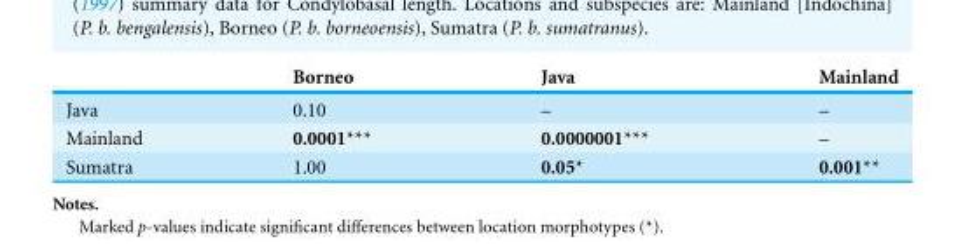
<table><thead><tr><td></td><td>Borneo</td><td>Java</td><td>Mainland</td></tr></thead><tbody><tr><td>Java</td><td>0.10</td><td>–</td><td>–</td></tr><tr><td>Mainland</td><td>0.0001***</td><td>0.0000001***</td><td>–</td></tr><tr><td>Sumatra</td><td>1.00</td><td>0.05*</td><td>0.001**</td></tr></tbody></table>